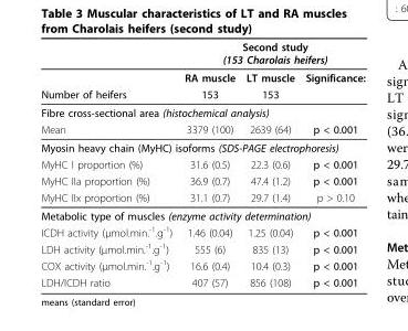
<table><thead><tr><td rowspan="2"></td><td colspan="3">Second study (153 Charolais heifers)</td></tr><tr><td>RA muscle</td><td>LT muscle</td><td>Significance:</td></tr></thead><tbody><tr><td>Number of heifers</td><td>153</td><td>153</td><td></td></tr><tr><td colspan="4">Fibre cross-sectional area (histochemical analysis)</td></tr><tr><td>Mean</td><td>3379 (100)</td><td>2639 (64)</td><td>p &lt; 0.001</td></tr><tr><td colspan="4">Myosin heavy chain (MyHC) isoforms (SDS-PAGE electrophoresis)</td></tr><tr><td>MyHC I proportion (%)</td><td>31.6 (0.5)</td><td>22.3 (0.6)</td><td>p &lt; 0.001</td></tr><tr><td>MyHC IIa proportion (%)</td><td>36.9 (0.7)</td><td>47.4 (1.2)</td><td>p &lt; 0.001</td></tr><tr><td>MyHC IIx proportion (%)</td><td>31.1 (0.7)</td><td>29.7 (1.4)</td><td>p &gt; 0.10</td></tr><tr><td colspan="4">Metabolic type of muscles (enzyme activity determination)</td></tr><tr><td>ICDH activity (μmol.min.<sup>-1</sup>.g<sup>-1</sup>)</td><td>1.46 (0.04)</td><td>1.25 (0.04)</td><td>p &lt; 0.001</td></tr><tr><td>LDH activity (μmol.min.<sup>-1</sup>.g<sup>-1</sup>)</td><td>555 (6)</td><td>835 (13)</td><td>p &lt; 0.001</td></tr><tr><td>COX activity (μmol.min.<sup>-1</sup>.g<sup>-1</sup>)</td><td>16.6 (0.4)</td><td>10.4 (0.3)</td><td>p &lt; 0.001</td></tr><tr><td>LDH/ICDH ratio</td><td>407 (57)</td><td>856 (108)</td><td>p &lt; 0.001</td></tr></tbody></table>